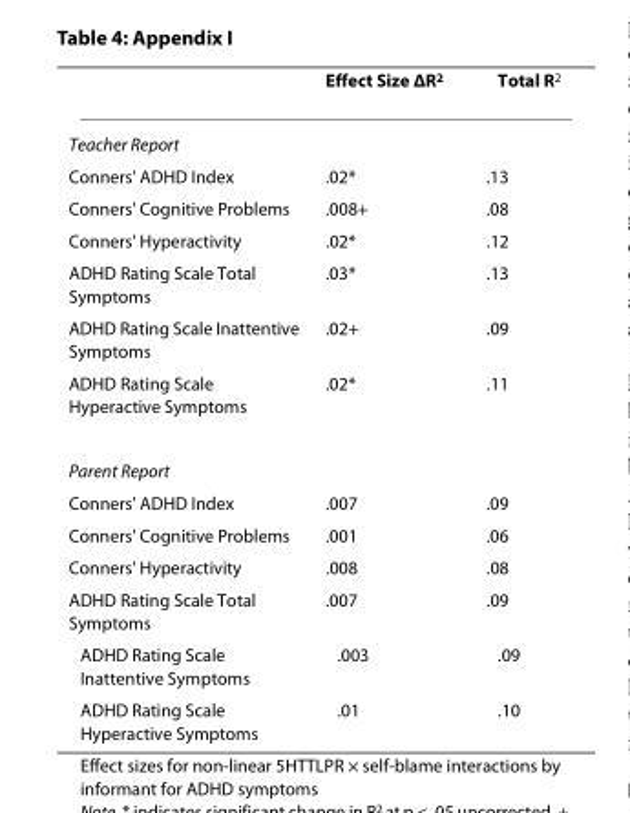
<table><thead><tr><td></td><td>Effect Size ΔR<sup>2</sup></td><td>Total R<sup>2</sup></td></tr></thead><tbody><tr><td colspan="3">Teacher Report</td></tr><tr><td>Conners&#x27; ADHD Index</td><td>.02*</td><td>.13</td></tr><tr><td>Conners&#x27; Cognitive Problems</td><td>.008+</td><td>.08</td></tr><tr><td>Conners&#x27; Hyperactivity</td><td>.02*</td><td>.12</td></tr><tr><td>ADHD Rating Scale Total Symptoms</td><td>.03*</td><td>.13</td></tr><tr><td>ADHD Rating Scale Inattentive Symptoms</td><td>.02+</td><td>.09</td></tr><tr><td>ADHD Rating Scale Hyperactive Symptoms</td><td>.02*</td><td>.11</td></tr><tr><td colspan="3">Parent Report</td></tr><tr><td>Conners&#x27; ADHD Index</td><td>.007</td><td>.09</td></tr><tr><td>Conners&#x27; Cognitive Problems</td><td>.001</td><td>.06</td></tr><tr><td>Conners&#x27; Hyperactivity</td><td>.008</td><td>.08</td></tr><tr><td>ADHD Rating Scale Total Symptoms</td><td>.007</td><td>.09</td></tr><tr><td>ADHD Rating Scale Inattentive Symptoms</td><td>.003</td><td>.09</td></tr><tr><td>ADHD Rating Scale Hyperactive Symptoms</td><td>.01</td><td>.10</td></tr></tbody></table>